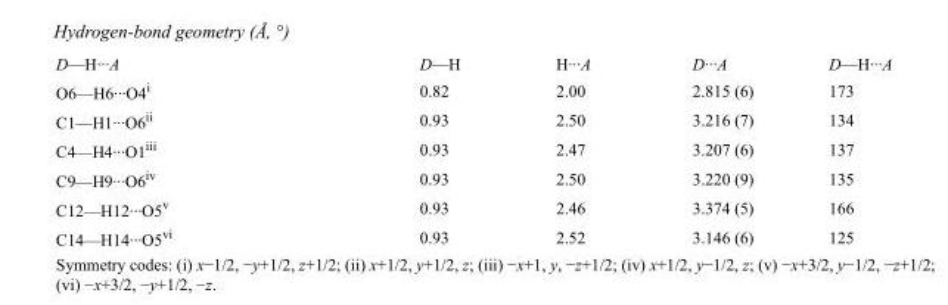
<table><tbody><tr><td>D—H···A</td><td>D—H</td><td>H···A</td><td>D···A</td><td>D—H···A</td></tr><tr><td>O6—H6···O4<sup>i</sup></td><td>0.82</td><td>2.00</td><td>2.815 (6)</td><td>173</td></tr><tr><td>C1—H1···O6<sup>ii</sup></td><td>0.93</td><td>2.50</td><td>3.216 (7)</td><td>134</td></tr><tr><td>C4—H4···O1<sup>iii</sup></td><td>0.93</td><td>2.47</td><td>3.207 (6)</td><td>137</td></tr><tr><td>C9—H9···O6<sup>iv</sup></td><td>0.93</td><td>2.50</td><td>3.220 (9)</td><td>135</td></tr><tr><td>C12—H12···O5<sup>v</sup></td><td>0.93</td><td>2.46</td><td>3.374 (5)</td><td>166</td></tr><tr><td>C14—H14···O5<sup>vi</sup></td><td>0.93</td><td>2.52</td><td>3.146 (6)</td><td>125</td></tr></tbody></table>